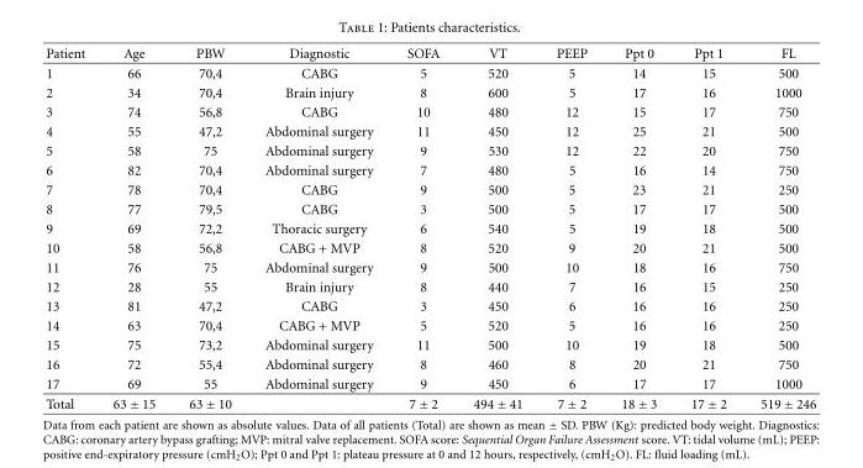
<table><thead><tr><td>Patient</td><td>Age</td><td>PBW</td><td>Diagnostic</td><td>SOFA</td><td>VT</td><td>PEEP</td><td>Ppt 0</td><td>Ppt 1</td><td>FL</td></tr></thead><tbody><tr><td>1</td><td>66</td><td>70,4</td><td>CABG</td><td>5</td><td>520</td><td>5</td><td>14</td><td>15</td><td>500</td></tr><tr><td>2</td><td>34</td><td>70,4</td><td>Brain injury</td><td>8</td><td>600</td><td>5</td><td>17</td><td>16</td><td>1000</td></tr><tr><td>3</td><td>74</td><td>56,8</td><td>CABG</td><td>10</td><td>480</td><td>12</td><td>15</td><td>17</td><td>750</td></tr><tr><td>4</td><td>55</td><td>47,2</td><td>Abdominal surgery</td><td>11</td><td>450</td><td>12</td><td>25</td><td>21</td><td>500</td></tr><tr><td>5</td><td>58</td><td>75</td><td>Abdominal surgery</td><td>9</td><td>530</td><td>12</td><td>22</td><td>20</td><td>750</td></tr><tr><td>6</td><td>82</td><td>70,4</td><td>Abdominal surgery</td><td>7</td><td>480</td><td>5</td><td>16</td><td>14</td><td>750</td></tr><tr><td>7</td><td>78</td><td>70,4</td><td>CABG</td><td>9</td><td>500</td><td>5</td><td>23</td><td>21</td><td>250</td></tr><tr><td>8</td><td>77</td><td>79,5</td><td>CABG</td><td>3</td><td>500</td><td>5</td><td>17</td><td>17</td><td>500</td></tr><tr><td>9</td><td>69</td><td>72,2</td><td>Thoracic surgery</td><td>6</td><td>540</td><td>5</td><td>19</td><td>18</td><td>500</td></tr><tr><td>10</td><td>58</td><td>56,8</td><td>CABG + MVP</td><td>8</td><td>520</td><td>9</td><td>20</td><td>21</td><td>500</td></tr><tr><td>11</td><td>76</td><td>75</td><td>Abdominal surgery</td><td>9</td><td>500</td><td>10</td><td>18</td><td>16</td><td>750</td></tr><tr><td>12</td><td>28</td><td>55</td><td>Brain injury</td><td>8</td><td>440</td><td>7</td><td>16</td><td>15</td><td>250</td></tr><tr><td>13</td><td>81</td><td>47,2</td><td>CABG</td><td>3</td><td>450</td><td>6</td><td>16</td><td>16</td><td>250</td></tr><tr><td>14</td><td>63</td><td>70,4</td><td>CABG + MVP</td><td>5</td><td>520</td><td>5</td><td>16</td><td>16</td><td>250</td></tr><tr><td>15</td><td>75</td><td>73,2</td><td>Abdominal surgery</td><td>11</td><td>500</td><td>10</td><td>19</td><td>18</td><td>500</td></tr><tr><td>16</td><td>72</td><td>55,4</td><td>Abdominal surgery</td><td>8</td><td>460</td><td>8</td><td>20</td><td>21</td><td>750</td></tr><tr><td>17</td><td>69</td><td>55</td><td>Abdominal surgery</td><td>9</td><td>450</td><td>6</td><td>17</td><td>17</td><td>1000</td></tr><tr><td>Total</td><td>63 ± 15</td><td>63 ± 10</td><td></td><td>7 ± 2</td><td>494 ± 41</td><td>7 ± 2</td><td>18 ± 3</td><td>17 ± 2</td><td>519 ± 246</td></tr></tbody></table>